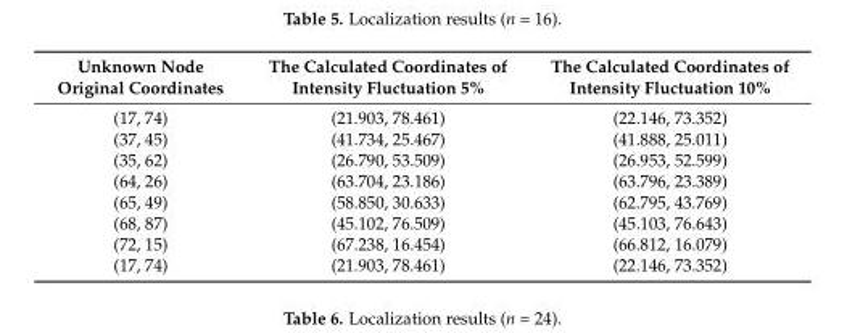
<table><thead><tr><td>Unknown Node Original Coordinates</td><td>The Calculated Coordinates of Intensity Fluctuation 5%</td><td>The Calculated Coordinates of Intensity Fluctuation 10%</td></tr></thead><tbody><tr><td>(17, 74)</td><td>(21.903, 78.461)</td><td>(22.146, 73.352)</td></tr><tr><td>(37, 45)</td><td>(41.734, 25.467)</td><td>(41.888, 25.011)</td></tr><tr><td>(35, 62)</td><td>(26.790, 53.509)</td><td>(26.953, 52.599)</td></tr><tr><td>(64, 26)</td><td>(63.704, 23.186)</td><td>(63.796, 23.389)</td></tr><tr><td>(65, 49)</td><td>(58.850, 30.633)</td><td>(62.795, 43.769)</td></tr><tr><td>(68, 87)</td><td>(45.102, 76.509)</td><td>(45.103, 76.643)</td></tr><tr><td>(72, 15)</td><td>(67.238, 16.454)</td><td>(66.812, 16.079)</td></tr><tr><td>(17, 74)</td><td>(21.903, 78.461)</td><td>(22.146, 73.352)</td></tr></tbody></table>